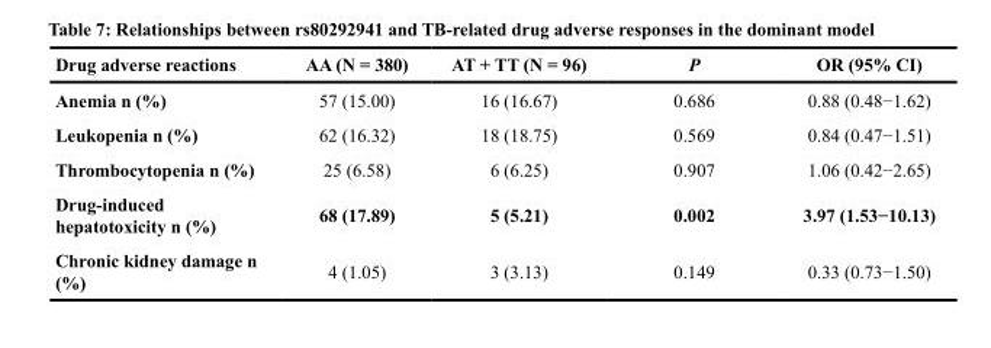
<table><thead><tr><td>Drug adverse reactions</td><td>AA (N = 380)</td><td>AT + TT (N = 96)</td><td>P</td><td>OR (95% CI)</td></tr></thead><tbody><tr><td>Anemia n (%)</td><td>57 (15.00)</td><td>16 (16.67)</td><td>0.686</td><td>0.88 (0.48−1.62)</td></tr><tr><td>Leukopenia n (%)</td><td>62 (16.32)</td><td>18 (18.75)</td><td>0.569</td><td>0.84 (0.47−1.51)</td></tr><tr><td>Thrombocytopenia n (%)</td><td>25 (6.58)</td><td>6 (6.25)</td><td>0.907</td><td>1.06 (0.42−2.65)</td></tr><tr><td>Drug-induced hepatotoxicity n (%)</td><td>68 (17.89)</td><td>5 (5.21)</td><td>0.002</td><td>3.97 (1.53−10.13)</td></tr><tr><td>Chronic kidney damage n (%)</td><td>4 (1.05)</td><td>3 (3.13)</td><td>0.149</td><td>0.33 (0.73−1.50)</td></tr></tbody></table>